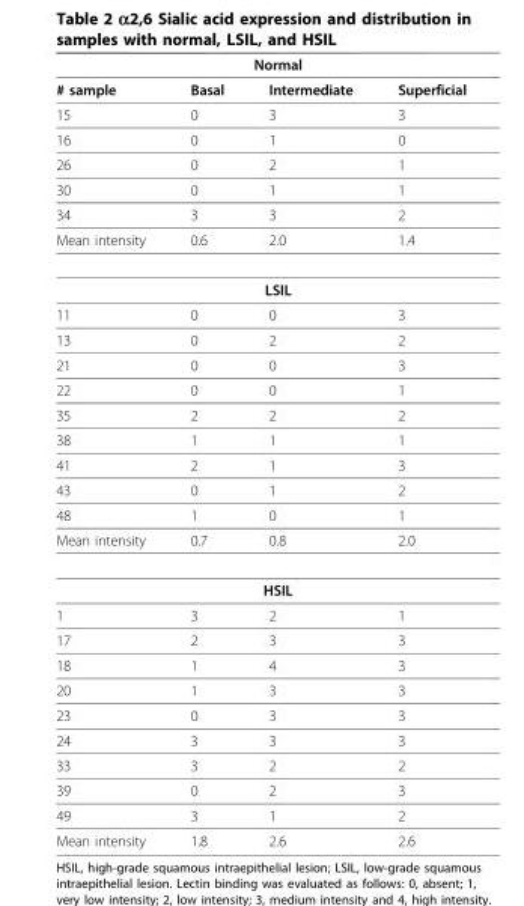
<table><thead><tr><td colspan="4">Normal</td></tr><tr><td># sample</td><td>Basal</td><td>Intermediate</td><td>Superficial</td></tr></thead><tbody><tr><td>15</td><td>0</td><td>3</td><td>3</td></tr><tr><td>16</td><td>0</td><td>1</td><td>0</td></tr><tr><td>26</td><td>0</td><td>2</td><td>1</td></tr><tr><td>30</td><td>0</td><td>1</td><td>1</td></tr><tr><td>34</td><td>3</td><td>3</td><td>2</td></tr><tr><td>Mean intensity</td><td>0.6</td><td>2.0</td><td>1.4</td></tr><tr><td colspan="4">LSIL</td></tr><tr><td>11</td><td>0</td><td>0</td><td>3</td></tr><tr><td>13</td><td>0</td><td>2</td><td>2</td></tr><tr><td>21</td><td>0</td><td>0</td><td>3</td></tr><tr><td>22</td><td>0</td><td>0</td><td>1</td></tr><tr><td>35</td><td>2</td><td>2</td><td>2</td></tr><tr><td>38</td><td>1</td><td>1</td><td>1</td></tr><tr><td>41</td><td>2</td><td>1</td><td>3</td></tr><tr><td>43</td><td>0</td><td>1</td><td>2</td></tr><tr><td>48</td><td>1</td><td>0</td><td>1</td></tr><tr><td>Mean intensity</td><td>0.7</td><td>0.8</td><td>2.0</td></tr><tr><td colspan="4">HSIL</td></tr><tr><td>1</td><td>3</td><td>2</td><td>1</td></tr><tr><td>17</td><td>2</td><td>3</td><td>3</td></tr><tr><td>18</td><td>1</td><td>4</td><td>3</td></tr><tr><td>20</td><td>1</td><td>3</td><td>3</td></tr><tr><td>23</td><td>0</td><td>3</td><td>3</td></tr><tr><td>24</td><td>3</td><td>3</td><td>3</td></tr><tr><td>33</td><td>3</td><td>2</td><td>2</td></tr><tr><td>39</td><td>0</td><td>2</td><td>3</td></tr><tr><td>49</td><td>3</td><td>1</td><td>2</td></tr><tr><td>Mean intensity</td><td>1.8</td><td>2.6</td><td>2.6</td></tr></tbody></table>